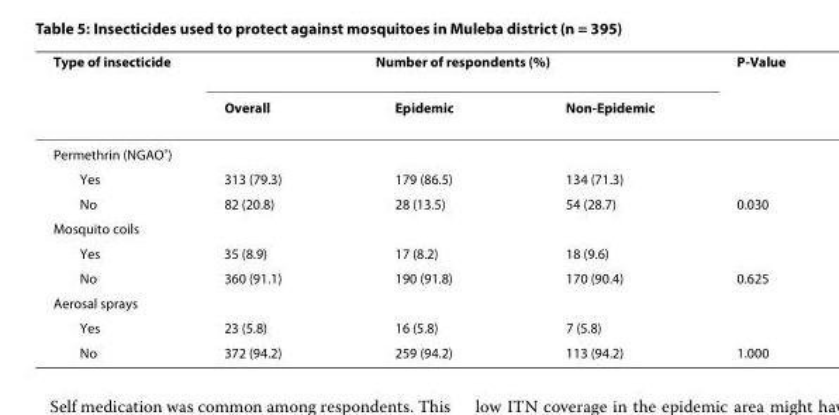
<table><thead><tr><td rowspan="2">Type of insecticide</td><td colspan="3">Number of respondents (%)</td><td rowspan="2">P-Value</td></tr><tr><td>Overall</td><td>Epidemic</td><td>Non-Epidemic</td></tr></thead><tbody><tr><td colspan="5">Permethrin (NGAO<sup>®</sup>)</td></tr><tr><td>Yes</td><td>313 (79.3)</td><td>179 (86.5)</td><td>134 (71.3)</td><td></td></tr><tr><td>No</td><td>82 (20.8)</td><td>28 (13.5)</td><td>54 (28.7)</td><td>0.030</td></tr><tr><td colspan="5">Mosquito coils</td></tr><tr><td>Yes</td><td>35 (8.9)</td><td>17 (8.2)</td><td>18 (9.6)</td><td></td></tr><tr><td>No</td><td>360 (91.1)</td><td>190 (91.8)</td><td>170 (90.4)</td><td>0.625</td></tr><tr><td colspan="5">Aerosal sprays</td></tr><tr><td>Yes</td><td>23 (5.8)</td><td>16 (5.8)</td><td>7 (5.8)</td><td></td></tr><tr><td>No</td><td>372 (94.2)</td><td>259 (94.2)</td><td>113 (94.2)</td><td>1.000</td></tr></tbody></table>